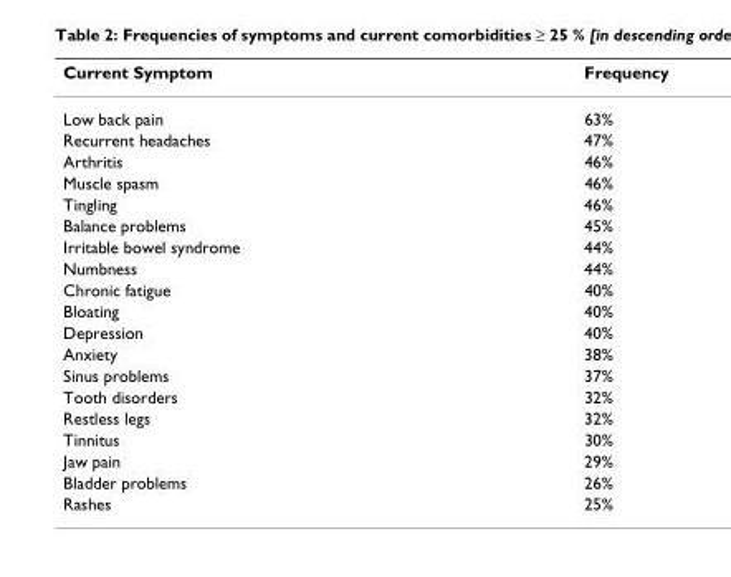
<table><thead><tr><td>Current Symptom</td><td>Frequency</td></tr></thead><tbody><tr><td>Low back pain</td><td>63%</td></tr><tr><td>Recurrent headaches</td><td>47%</td></tr><tr><td>Arthritis</td><td>46%</td></tr><tr><td>Muscle spasm</td><td>46%</td></tr><tr><td>Tingling</td><td>46%</td></tr><tr><td>Balance problems</td><td>45%</td></tr><tr><td>Irritable bowel syndrome</td><td>44%</td></tr><tr><td>Numbness</td><td>44%</td></tr><tr><td>Chronic fatigue</td><td>40%</td></tr><tr><td>Bloating</td><td>40%</td></tr><tr><td>Depression</td><td>40%</td></tr><tr><td>Anxiety</td><td>38%</td></tr><tr><td>Sinus problems</td><td>37%</td></tr><tr><td>Tooth disorders</td><td>32%</td></tr><tr><td>Restless legs</td><td>32%</td></tr><tr><td>Tinnitus</td><td>30%</td></tr><tr><td>Jaw pain</td><td>29%</td></tr><tr><td>Bladder problems</td><td>26%</td></tr><tr><td>Rashes</td><td>25%</td></tr></tbody></table>